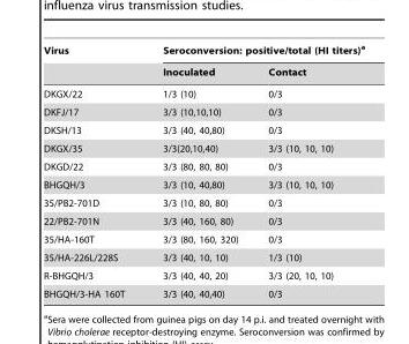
<table><thead><tr><td rowspan="2">Virus</td><td colspan="2">Seroconversion: positive/total (HI titers)<sup>a</sup></td></tr><tr><td>Inoculated</td><td>Contact</td></tr></thead><tbody><tr><td>DKGX/22</td><td>1/3 (10)</td><td>0/3</td></tr><tr><td>DKFJ/17</td><td>3/3 (10,10,10)</td><td>0/3</td></tr><tr><td>DKSH/13</td><td>3/3 (40, 40,80)</td><td>0/3</td></tr><tr><td>DKGX/35</td><td>3/3(20,10,40)</td><td>3/3 (10, 10, 10)</td></tr><tr><td>DKGD/22</td><td>3/3 (80, 80, 80)</td><td>0/3</td></tr><tr><td>BHGQH/3</td><td>3/3 (10, 40,80)</td><td>3/3 (10, 10, 10)</td></tr><tr><td>35/PB2-701D</td><td>3/3 (10, 80, 80)</td><td>0/3</td></tr><tr><td>22/PB2-701N</td><td>3/3 (40, 160, 80)</td><td>0/3</td></tr><tr><td>35/HA-160T</td><td>3/3 (80, 160, 320)</td><td>0/3</td></tr><tr><td>35/HA-226L/228S</td><td>3/3 (40, 10, 10)</td><td>1/3 (10)</td></tr><tr><td>R-BHGQH/3</td><td>3/3 (40, 40, 20)</td><td>3/3 (20, 10, 10)</td></tr><tr><td>BHGQH/3-HA 160T</td><td>3/3 (40, 40,40)</td><td>0/3</td></tr></tbody></table>